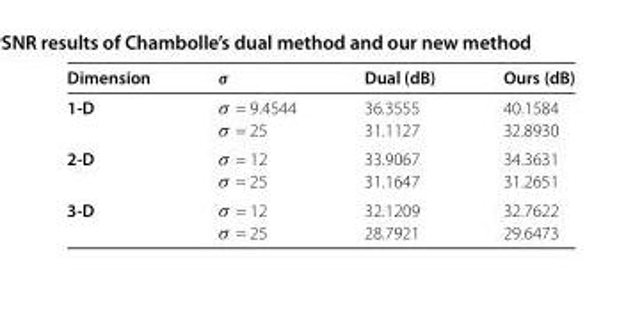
<table><thead><tr><td>Dimension</td><td>σ</td><td>Dual (dB)</td><td>Ours (dB)</td></tr></thead><tbody><tr><td rowspan="2">1-D</td><td>σ = 9.4544</td><td>36.3555</td><td>40.1584</td></tr><tr><td>σ = 25</td><td>31.1127</td><td>32.8930</td></tr><tr><td rowspan="2">2-D</td><td>σ = 12</td><td>33.9067</td><td>34.3631</td></tr><tr><td>σ = 25</td><td>31.1647</td><td>31.2651</td></tr><tr><td rowspan="2">3-D</td><td>σ = 12</td><td>32.1209</td><td>32.7622</td></tr><tr><td>σ = 25</td><td>28.7921</td><td>29.6473</td></tr></tbody></table>